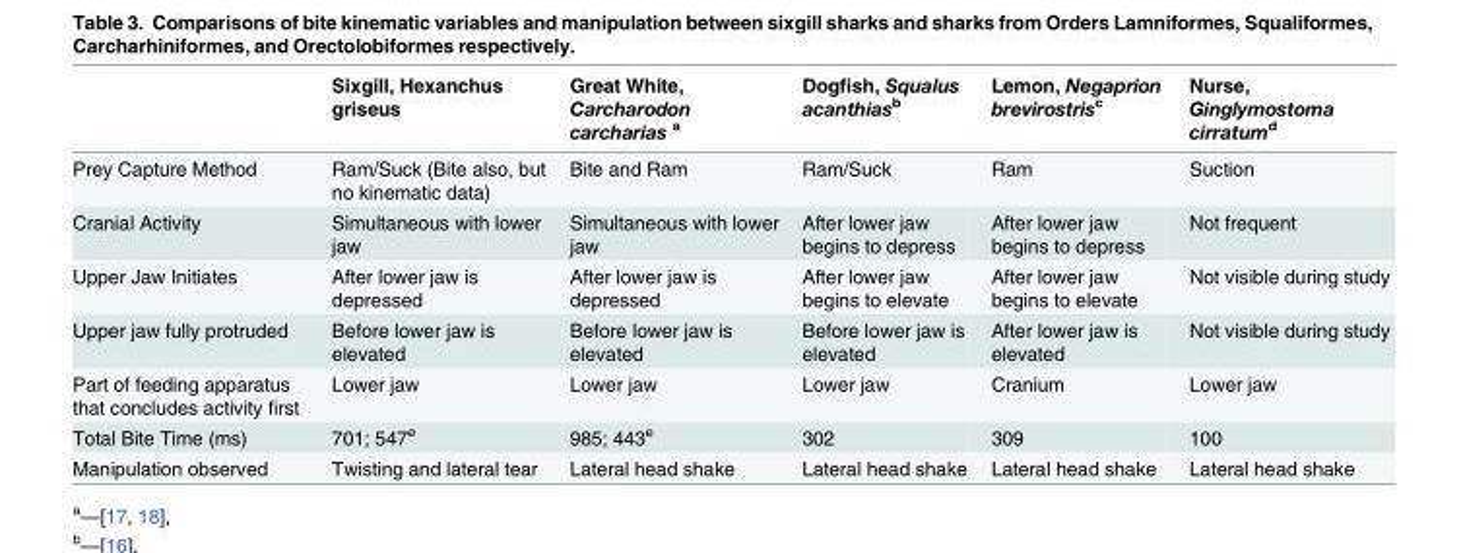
<table><thead><tr><td></td><td>Sixgill, Hexanchus griseus</td><td>Great White, Carcharodon carcharias <sup>a</sup></td><td>Dogfish, Squalus acanthias<sup>b</sup></td><td>Lemon, Negaprion brevirostris<sup>c</sup></td><td>Nurse, Ginglymostoma cirratum<sup>d</sup></td></tr></thead><tbody><tr><td>Prey Capture Method</td><td>Ram/Suck (Bite also, but no kinematic data)</td><td>Bite and Ram</td><td>Ram/Suck</td><td>Ram</td><td>Suction</td></tr><tr><td>Cranial Activity</td><td>Simultaneous with lower jaw</td><td>Simultaneous with lower jaw</td><td>After lower jaw begins to depress</td><td>After lower jaw begins to depress</td><td>Not frequent</td></tr><tr><td>Upper Jaw Initiates</td><td>After lower jaw is depressed</td><td>After lower jaw is depressed</td><td>After lower jaw begins to elevate</td><td>After lower jaw begins to elevate</td><td>Not visible during study</td></tr><tr><td>Upper jaw fully protruded</td><td>Before lower jaw is elevated</td><td>Before lower jaw is elevated</td><td>Before lower jaw is elevated</td><td>After lower jaw is elevated</td><td>Not visible during study</td></tr><tr><td>Part of feeding apparatus that concludes activity first</td><td>Lower jaw</td><td>Lower jaw</td><td>Lower jaw</td><td>Cranium</td><td>Lower jaw</td></tr><tr><td>Total Bite Time (ms)</td><td>701; 547<sup>e</sup></td><td>985; 443<sup>e</sup></td><td>302</td><td>309</td><td>100</td></tr><tr><td>Manipulation observed</td><td>Twisting and lateral tear</td><td>Lateral head shake</td><td>Lateral head shake</td><td>Lateral head shake</td><td>Lateral head shake</td></tr></tbody></table>